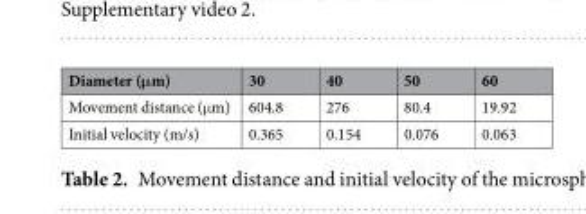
<table><thead><tr><td>Diameter (μm)</td><td>30</td><td>40</td><td>50</td><td>60</td></tr></thead><tbody><tr><td>Movement distance (μm)</td><td>604.8</td><td>276</td><td>80.4</td><td>19.92</td></tr><tr><td>Initial velocity (m/s)</td><td>0.365</td><td>0.154</td><td>0.076</td><td>0.063</td></tr></tbody></table>